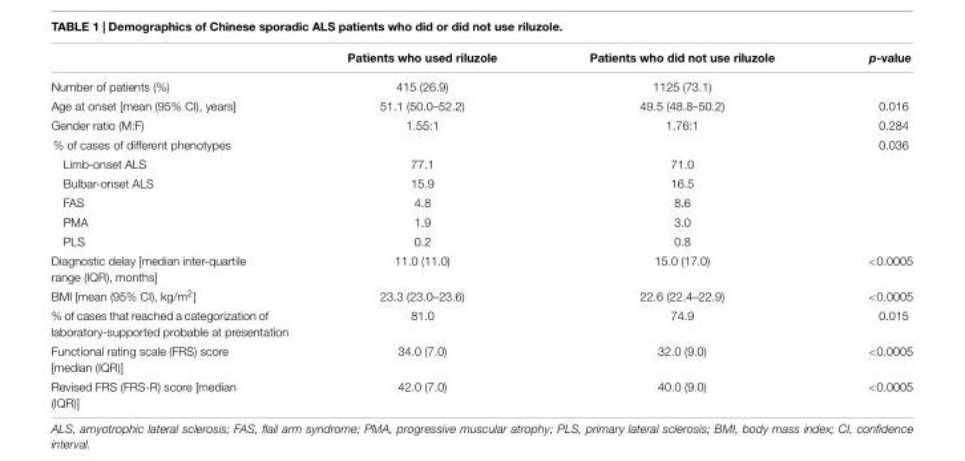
<table><thead><tr><td></td><td>Patients who used riluzole</td><td>Patients who did not use riluzole</td><td>p-value</td></tr></thead><tbody><tr><td>Number of patients (%)</td><td>415 (26.9)</td><td>1125 (73.1)</td><td></td></tr><tr><td>Age at onset [mean (95% CI), years]</td><td>51.1 (50.0–52.2)</td><td>49.5 (48.8–50.2)</td><td>0.016</td></tr><tr><td>Gender ratio (M:F)</td><td>1.55:1</td><td>1.76:1</td><td>0.284</td></tr><tr><td colspan="3">% of cases of different phenotypes</td><td>0.036</td></tr><tr><td>Limb-onset ALS</td><td>77.1</td><td>71.0</td><td></td></tr><tr><td>Bulbar-onset ALS</td><td>15.9</td><td>16.5</td><td></td></tr><tr><td>FAS</td><td>4.8</td><td>8.6</td><td></td></tr><tr><td>PMA</td><td>1.9</td><td>3.0</td><td></td></tr><tr><td>PLS</td><td>0.2</td><td>0.8</td><td></td></tr><tr><td>Diagnostic delay [median inter-quartile range (IQR), months]</td><td>11.0 (11.0)</td><td>15.0 (17.0)</td><td>&lt;0.0005</td></tr><tr><td>BMI [mean (95% CI), kg/m<sup>2</sup>]</td><td>23.3 (23.0–23.6)</td><td>22.6 (22.4–22.9)</td><td>&lt;0.0005</td></tr><tr><td>% of cases that reached a categorization of laboratory-supported probable at presentation</td><td>81.0</td><td>74.9</td><td>0.015</td></tr><tr><td>Functional rating scale (FRS) score [median (IQR)]</td><td>34.0 (7.0)</td><td>32.0 (9.0)</td><td>&lt;0.0005</td></tr><tr><td>Revised FRS (FRS-R) score [median (IQR)]</td><td>42.0 (7.0)</td><td>40.0 (9.0)</td><td>&lt;0.0005</td></tr></tbody></table>